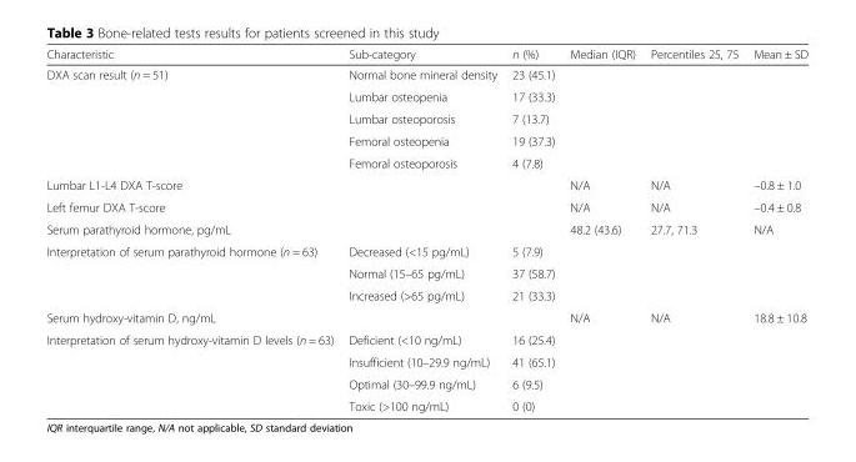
<table><thead><tr><td>Characteristic</td><td>Sub-category</td><td>n (%)</td><td>Median (IQR)</td><td>Percentiles 25, 75</td><td>Mean ± SD</td></tr></thead><tbody><tr><td rowspan="5">DXA scan result (n = 51)</td><td>Normal bone mineral density</td><td>23 (45.1)</td><td></td><td></td><td></td></tr><tr><td>Lumbar osteopenia</td><td>17 (33.3)</td><td></td><td></td><td></td></tr><tr><td>Lumbar osteoporosis</td><td>7 (13.7)</td><td></td><td></td><td></td></tr><tr><td>Femoral osteopenia</td><td>19 (37.3)</td><td></td><td></td><td></td></tr><tr><td>Femoral osteoporosis</td><td>4 (7.8)</td><td></td><td></td><td></td></tr><tr><td>Lumbar L1-L4 DXA T-score</td><td></td><td></td><td>N/A</td><td>N/A</td><td>–0.8 ± 1.0</td></tr><tr><td>Left femur DXA T-score</td><td></td><td></td><td>N/A</td><td>N/A</td><td>–0.4 ± 0.8</td></tr><tr><td>Serum parathyroid hormone, pg/mL</td><td></td><td></td><td>48.2 (43.6)</td><td>27.7, 71.3</td><td>N/A</td></tr><tr><td rowspan="3">Interpretation of serum parathyroid hormone (n = 63)</td><td>Decreased (&lt;15 pg/mL)</td><td>5 (7.9)</td><td></td><td></td><td></td></tr><tr><td>Normal (15–65 pg/mL)</td><td>37 (58.7)</td><td></td><td></td><td></td></tr><tr><td>Increased (&gt;65 pg/mL)</td><td>21 (33.3)</td><td></td><td></td><td></td></tr><tr><td>Serum hydroxy-vitamin D, ng/mL</td><td></td><td></td><td>N/A</td><td>N/A</td><td>18.8 ± 10.8</td></tr><tr><td rowspan="4">Interpretation of serum hydroxy-vitamin D levels (n = 63)</td><td>Deficient (&lt;10 ng/mL)</td><td>16 (25.4)</td><td></td><td></td><td></td></tr><tr><td>Insufficient (10–29.9 ng/mL)</td><td>41 (65.1)</td><td></td><td></td><td></td></tr><tr><td>Optimal (30–99.9 ng/mL)</td><td>6 (9.5)</td><td></td><td></td><td></td></tr><tr><td>Toxic (&gt;100 ng/mL)</td><td>0 (0)</td><td></td><td></td><td></td></tr></tbody></table>